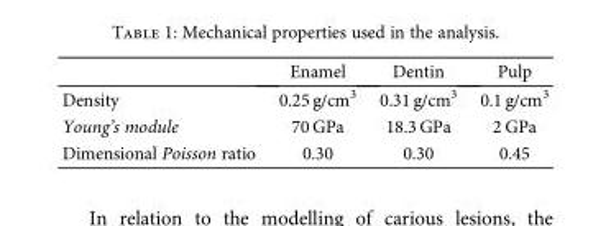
<table><thead><tr><td></td><td>Enamel</td><td>Dentin</td><td>Pulp</td></tr></thead><tbody><tr><td>Density</td><td>0.25 g/cm<sup>3</sup></td><td>0.31 g/cm<sup>3</sup></td><td>0.1 g/cm<sup>3</sup></td></tr><tr><td>Young’s module</td><td>70 GPa</td><td>18.3 GPa</td><td>2 GPa</td></tr><tr><td>Dimensional Poisson ratio</td><td>0.30</td><td>0.30</td><td>0.45</td></tr></tbody></table>